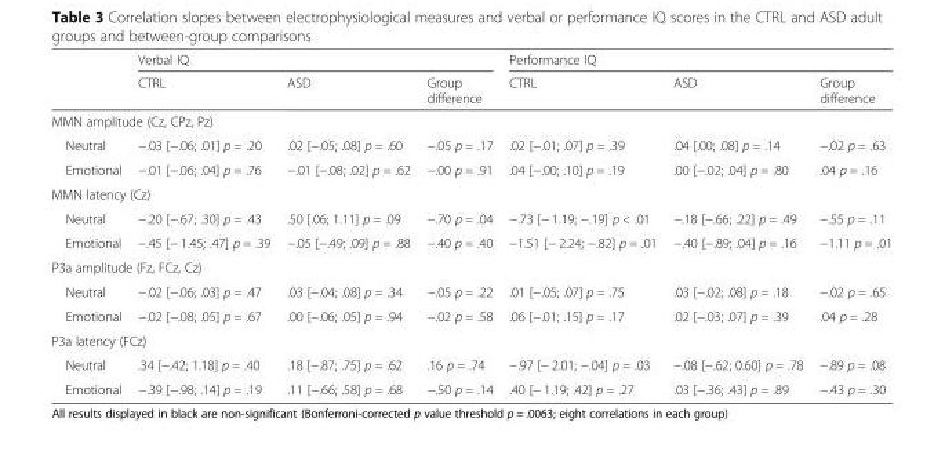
<table><thead><tr><td rowspan="2"></td><td colspan="3">Verbal IQ</td><td colspan="3">Performance IQ</td></tr><tr><td>CTRL</td><td>ASD</td><td>Group difference</td><td>CTRL</td><td>ASD</td><td>Group difference</td></tr></thead><tbody><tr><td colspan="7">MMN amplitude (Cz, CPz, Pz)</td></tr><tr><td>Neutral</td><td>−.03 [−.06; .01] p = .20</td><td>.02 [−.05; .08] p = .60</td><td>−.05 p = .17</td><td>.02 [−.01; .07] p = .39</td><td>.04 [.00; .08] p = .14</td><td>−.02 p = .63</td></tr><tr><td>Emotional</td><td>−.01 [−.06; .04] p = .76</td><td>−.01 [−.08; .02] p = .62</td><td>−.00 p = .91</td><td>.04 [−.00; .10] p = .19</td><td>.00 [−.02; .04] p = .80</td><td>.04 p = .16</td></tr><tr><td colspan="7">MMN latency (Cz)</td></tr><tr><td>Neutral</td><td>−.20 [−.67; .30] p = .43</td><td>.50 [.06; 1.11] p = .09</td><td>−.70 p = .04</td><td>−.73 [− 1.19; −.19] p &lt; .01</td><td>−.18 [−.66; .22] p = .49</td><td>−.55 p = .11</td></tr><tr><td>Emotional</td><td>−.45 [− 1.45; .47] p = .39</td><td>−.05 [−.49; .09] p = .88</td><td>−.40 p = .40</td><td>−1.51 [− 2.24; −.82] p = .01</td><td>−.40 [−.89; .04] p = .16</td><td>−1.11 p = .01</td></tr><tr><td colspan="7">P3a amplitude (Fz, FCz, Cz)</td></tr><tr><td>Neutral</td><td>−.02 [−.06; .03] p = .47</td><td>.03 [−.04; .08] p = .34</td><td>−.05 p = .22</td><td>.01 [−.05; .07] p = .75</td><td>.03 [−.02; .08] p = .18</td><td>−.02 p = .65</td></tr><tr><td>Emotional</td><td>−.02 [−.08; .05] p = .67</td><td>.00 [−.06; .05] p = .94</td><td>−.02 p = .58</td><td>.06 [−.01; .15] p = .17</td><td>.02 [−.03; .07] p = .39</td><td>.04 p = .28</td></tr><tr><td colspan="7">P3a latency (FCz)</td></tr><tr><td>Neutral</td><td>.34 [−.42; 1.18] p = .40</td><td>.18 [−.87; .75] p = .62</td><td>.16 p = .74</td><td>−.97 [− 2.01; −.04] p = .03</td><td>−.08 [−.62; 0.60] p = .78</td><td>−.89 p = .08</td></tr><tr><td>Emotional</td><td>−.39 [−.98; .14] p = .19</td><td>.11 [−.66; .58] p = .68</td><td>−.50 p = .14</td><td>.40 [− 1.19; .42] p = .27</td><td>.03 [−.36; .43] p = .89</td><td>−.43 p = .30</td></tr></tbody></table>